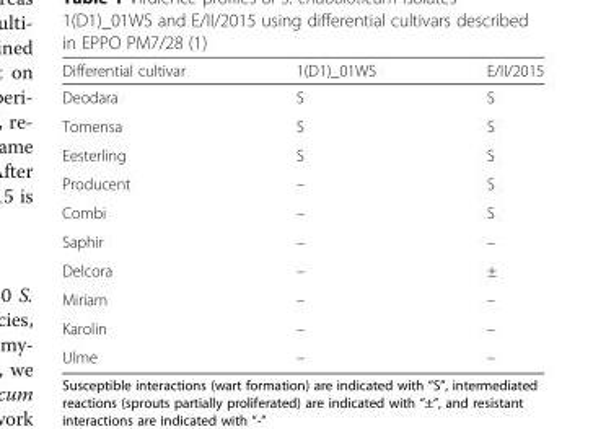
<table><thead><tr><td>Differential cultivar</td><td>1(D1)_01WS</td><td>E/II/2015</td></tr></thead><tbody><tr><td>Deodara</td><td>S</td><td>S</td></tr><tr><td>Tomensa</td><td>S</td><td>S</td></tr><tr><td>Eesterling</td><td>S</td><td>S</td></tr><tr><td>Producent</td><td>–</td><td>S</td></tr><tr><td>Combi</td><td>–</td><td>S</td></tr><tr><td>Saphir</td><td>–</td><td>–</td></tr><tr><td>Delcora</td><td>–</td><td>±</td></tr><tr><td>Miriam</td><td>–</td><td>–</td></tr><tr><td>Karolin</td><td>–</td><td>–</td></tr><tr><td>Ulme</td><td>–</td><td>–</td></tr></tbody></table>